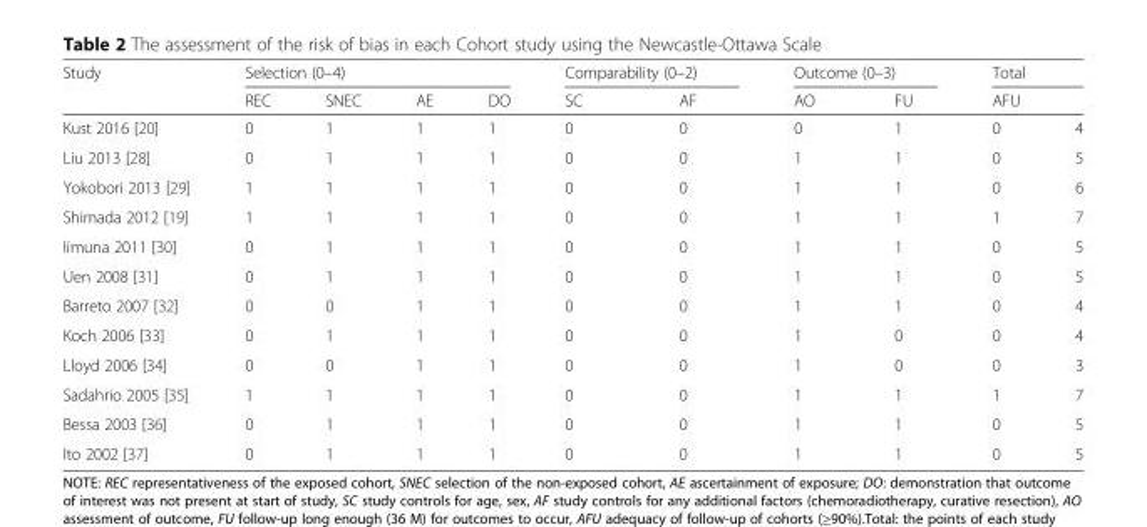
<table><thead><tr><td rowspan="2">Study</td><td colspan="4">Selection (0–4)</td><td colspan="2">Comparability (0–2)</td><td colspan="2">Outcome (0–3)</td><td colspan="2">Total</td></tr><tr><td>REC</td><td>SNEC</td><td>AE</td><td>DO</td><td>SC</td><td>AF</td><td>AO</td><td>FU</td><td>AFU</td><td></td></tr></thead><tbody><tr><td>Kust 2016 [20]</td><td>0</td><td>1</td><td>1</td><td>1</td><td>0</td><td>0</td><td>0</td><td>1</td><td>0</td><td>4</td></tr><tr><td>Liu 2013 [28]</td><td>0</td><td>1</td><td>1</td><td>1</td><td>0</td><td>0</td><td>1</td><td>1</td><td>0</td><td>5</td></tr><tr><td>Yokobori 2013 [29]</td><td>1</td><td>1</td><td>1</td><td>1</td><td>0</td><td>0</td><td>1</td><td>1</td><td>0</td><td>6</td></tr><tr><td>Shimada 2012 [19]</td><td>1</td><td>1</td><td>1</td><td>1</td><td>0</td><td>0</td><td>1</td><td>1</td><td>1</td><td>7</td></tr><tr><td>Iimuna 2011 [30]</td><td>0</td><td>1</td><td>1</td><td>1</td><td>0</td><td>0</td><td>1</td><td>1</td><td>0</td><td>5</td></tr><tr><td>Uen 2008 [31]</td><td>0</td><td>1</td><td>1</td><td>1</td><td>0</td><td>0</td><td>1</td><td>1</td><td>0</td><td>5</td></tr><tr><td>Barreto 2007 [32]</td><td>0</td><td>0</td><td>1</td><td>1</td><td>0</td><td>0</td><td>1</td><td>1</td><td>0</td><td>4</td></tr><tr><td>Koch 2006 [33]</td><td>0</td><td>1</td><td>1</td><td>1</td><td>0</td><td>0</td><td>1</td><td>0</td><td>0</td><td>4</td></tr><tr><td>Lloyd 2006 [34]</td><td>0</td><td>0</td><td>1</td><td>1</td><td>0</td><td>0</td><td>1</td><td>0</td><td>0</td><td>3</td></tr><tr><td>Sadahrio 2005 [35]</td><td>1</td><td>1</td><td>1</td><td>1</td><td>0</td><td>0</td><td>1</td><td>1</td><td>1</td><td>7</td></tr><tr><td>Bessa 2003 [36]</td><td>0</td><td>1</td><td>1</td><td>1</td><td>0</td><td>0</td><td>1</td><td>1</td><td>0</td><td>5</td></tr><tr><td>Ito 2002 [37]</td><td>0</td><td>1</td><td>1</td><td>1</td><td>0</td><td>0</td><td>1</td><td>1</td><td>0</td><td>5</td></tr></tbody></table>